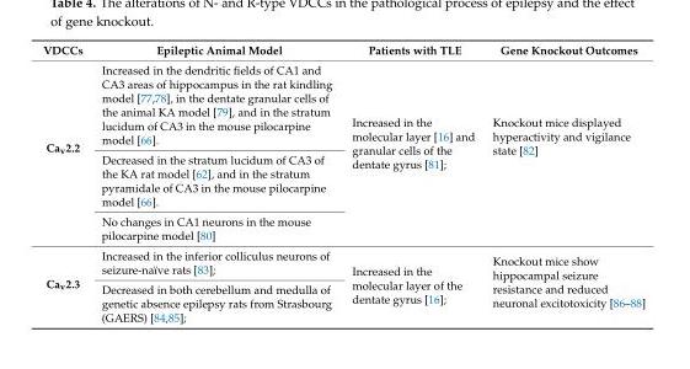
<table><thead><tr><td>VDCCs</td><td>Epileptic Animal Model</td><td>Patients with TLE</td><td>Gene Knockout Outcomes</td></tr></thead><tbody><tr><td rowspan="3">Ca<sub>v</sub>2.2</td><td>Increased in the dendritic fields of CA1 and CA3 areas of hippocampus in the rat kindling model [77,78], in the dentate granular cells of the animal KA model [79], and in the stratum lucidum of CA3 in the mouse pilocarpine model [66].</td><td rowspan="3">Increased in the molecular layer [16] and granular cells of the dentate gyrus [81];</td><td rowspan="3">Knockout mice displayed hyperactivity and vigilance state [82]</td></tr><tr><td>Decreased in the stratum lucidum of CA3 of the KA rat model [62], and in the stratum pyramidale of CA3 in the mouse pilocarpine model [66].</td></tr><tr><td>No changes in CA1 neurons in the mouse pilocarpine model [80]</td></tr><tr><td rowspan="2">Ca<sub>v</sub>2.3</td><td>Increased in the inferior colliculus neurons of seizure-naïve rats [83];</td><td rowspan="2">Increased in the molecular layer of the dentate gyrus [16];</td><td rowspan="2">Knockout mice show hippocampal seizure resistance and reduced neuronal excitotoxicity [86–88]</td></tr><tr><td>Decreased in both cerebellum and medulla of genetic absence epilepsy rats from Strasbourg (GAERS) [84,85];</td></tr></tbody></table>